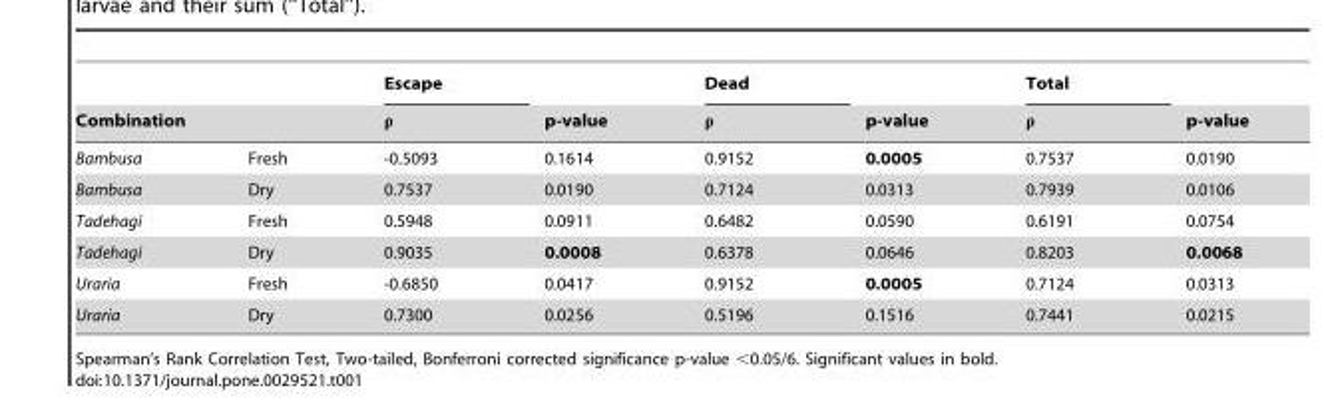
<table><thead><tr><td></td><td></td><td rowspan="2">Escape ρ</td><td rowspan="2">p-value</td><td rowspan="2">Dead ρ</td><td rowspan="2">p-value</td><td rowspan="2">Total ρ</td><td rowspan="2">p-value</td></tr><tr><td colspan="2">Combination</td></tr></thead><tbody><tr><td>Bambusa</td><td>Fresh</td><td>-0.5093</td><td>0.1614</td><td>0.9152</td><td>0.0005</td><td>0.7537</td><td>0.0190</td></tr><tr><td>Bambusa</td><td>Dry</td><td>0.7537</td><td>0.0190</td><td>0.7124</td><td>0.0313</td><td>0.7939</td><td>0.0106</td></tr><tr><td>Tadehagi</td><td>Fresh</td><td>0.5948</td><td>0.0911</td><td>0.6482</td><td>0.0590</td><td>0.6191</td><td>0.0754</td></tr><tr><td>Tadehagi</td><td>Dry</td><td>0.9035</td><td>0.0008</td><td>0.6378</td><td>0.0646</td><td>0.8203</td><td>0.0068</td></tr><tr><td>Uraria</td><td>Fresh</td><td>-0.6850</td><td>0.0417</td><td>0.9152</td><td>0.0005</td><td>0.7124</td><td>0.0313</td></tr><tr><td>Uraria</td><td>Dry</td><td>0.7300</td><td>0.0256</td><td>0.5196</td><td>0.1516</td><td>0.7441</td><td>0.0215</td></tr></tbody></table>